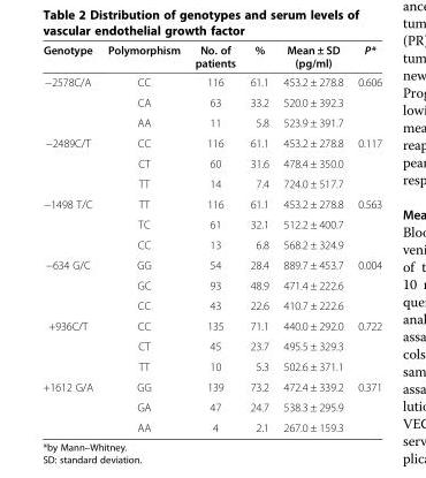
<table><thead><tr><td>Genotype</td><td>Polymorphism</td><td>No. of patients</td><td>%</td><td>Mean ± SD (pg/ml)</td><td>P*</td></tr></thead><tbody><tr><td rowspan="3">−2578C/A</td><td>CC</td><td>116</td><td>61.1</td><td>453.2 ± 278.8</td><td>0.606</td></tr><tr><td>CA</td><td>63</td><td>33.2</td><td>520.0 ± 392.3</td><td></td></tr><tr><td>AA</td><td>11</td><td>5.8</td><td>523.9 ± 391.7</td><td></td></tr><tr><td rowspan="3">−2489C/T</td><td>CC</td><td>116</td><td>61.1</td><td>453.2 ± 278.8</td><td>0.117</td></tr><tr><td>CT</td><td>60</td><td>31.6</td><td>478.4 ± 350.0</td><td></td></tr><tr><td>TT</td><td>14</td><td>7.4</td><td>724.0 ± 517.7</td><td></td></tr><tr><td rowspan="3">−1498 T/C</td><td>TT</td><td>116</td><td>61.1</td><td>453.2 ± 278.8</td><td>0.563</td></tr><tr><td>TC</td><td>61</td><td>32.1</td><td>512.2 ± 400.7</td><td></td></tr><tr><td>CC</td><td>13</td><td>6.8</td><td>568.2 ± 324.9</td><td></td></tr><tr><td rowspan="3">−634 G/C</td><td>GG</td><td>54</td><td>28.4</td><td>889.7 ± 453.7</td><td>0.004</td></tr><tr><td>GC</td><td>93</td><td>48.9</td><td>471.4 ± 222.6</td><td></td></tr><tr><td>CC</td><td>43</td><td>22.6</td><td>410.7 ± 222.6</td><td></td></tr><tr><td rowspan="3">+936C/T</td><td>CC</td><td>135</td><td>71.1</td><td>440.0 ± 292.0</td><td>0.722</td></tr><tr><td>CT</td><td>45</td><td>23.7</td><td>495.5 ± 329.3</td><td></td></tr><tr><td>TT</td><td>10</td><td>5.3</td><td>502.6 ± 371.1</td><td></td></tr><tr><td rowspan="3">+1612 G/A</td><td>GG</td><td>139</td><td>73.2</td><td>472.4 ± 339.2</td><td>0.371</td></tr><tr><td>GA</td><td>47</td><td>24.7</td><td>538.3 ± 295.9</td><td></td></tr><tr><td>AA</td><td>4</td><td>2.1</td><td>267.0 ± 159.3</td><td></td></tr></tbody></table>